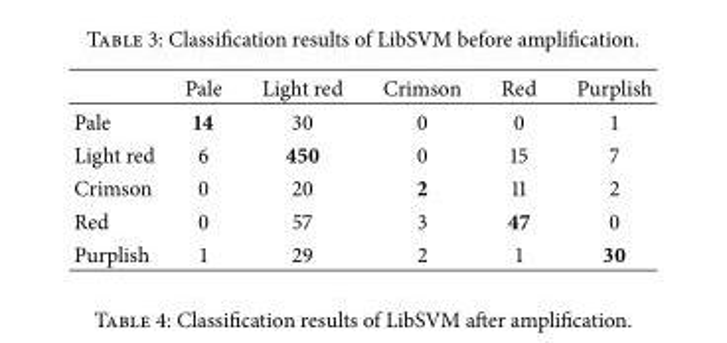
<table><thead><tr><td></td><td>Pale</td><td>Light red</td><td>Crimson</td><td>Red</td><td>Purplish</td></tr></thead><tbody><tr><td>Pale</td><td>14</td><td>30</td><td>0</td><td>0</td><td>1</td></tr><tr><td>Light red</td><td>6</td><td>450</td><td>0</td><td>15</td><td>7</td></tr><tr><td>Crimson</td><td>0</td><td>20</td><td>2</td><td>11</td><td>2</td></tr><tr><td>Red</td><td>0</td><td>57</td><td>3</td><td>47</td><td>0</td></tr><tr><td>Purplish</td><td>1</td><td>29</td><td>2</td><td>1</td><td>30</td></tr></tbody></table>